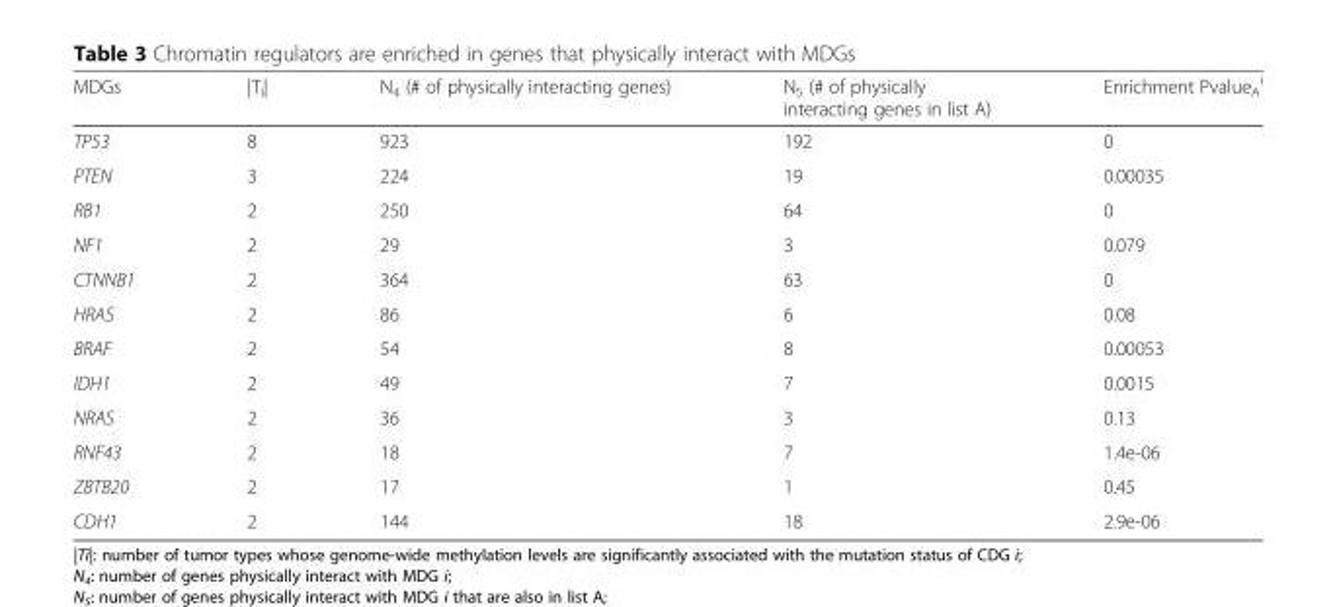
<table><thead><tr><td>MDGs</td><td>|T<sub>i</sub>|</td><td>N<sub>4</sub> (# of physically interacting genes)</td><td>N<sub>5</sub> (# of physically interacting genes in list A)</td><td>Enrichment Pvalue<sub>A</sub> <sup>i</sup></td></tr></thead><tbody><tr><td>TP53</td><td>8</td><td>923</td><td>192</td><td>0</td></tr><tr><td>PTEN</td><td>3</td><td>224</td><td>19</td><td>0.00035</td></tr><tr><td>RB1</td><td>2</td><td>250</td><td>64</td><td>0</td></tr><tr><td>NF1</td><td>2</td><td>29</td><td>3</td><td>0.079</td></tr><tr><td>CTNNB1</td><td>2</td><td>364</td><td>63</td><td>0</td></tr><tr><td>HRAS</td><td>2</td><td>86</td><td>6</td><td>0.08</td></tr><tr><td>BRAF</td><td>2</td><td>54</td><td>8</td><td>0.00053</td></tr><tr><td>IDH1</td><td>2</td><td>49</td><td>7</td><td>0.0015</td></tr><tr><td>NRAS</td><td>2</td><td>36</td><td>3</td><td>0.13</td></tr><tr><td>RNF43</td><td>2</td><td>18</td><td>7</td><td>1.4e-06</td></tr><tr><td>ZBTB20</td><td>2</td><td>17</td><td>1</td><td>0.45</td></tr><tr><td>CDH1</td><td>2</td><td>144</td><td>18</td><td>2.9e-06</td></tr></tbody></table>